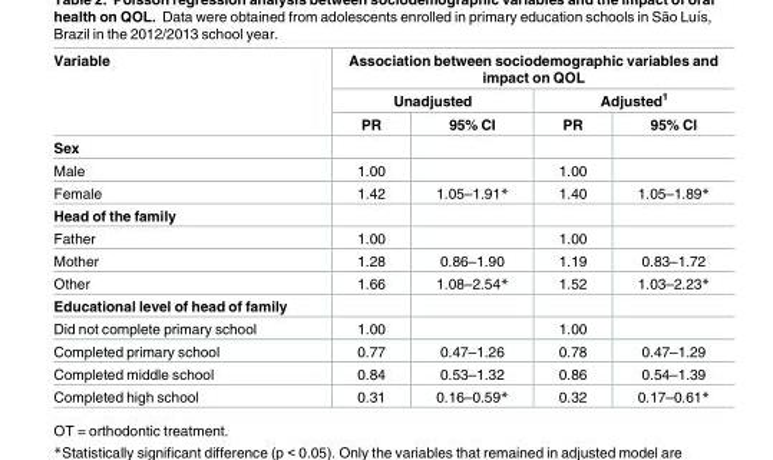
<table><thead><tr><td rowspan="3">Variable</td><td colspan="4">Association between sociodemographic variables and impact on QOL</td></tr><tr><td colspan="2">Unadjusted</td><td colspan="2">Adjusted<sup>1</sup></td></tr><tr><td>PR</td><td>95% CI</td><td>PR</td><td>95% CI</td></tr></thead><tbody><tr><td colspan="5">Sex</td></tr><tr><td>Male</td><td>1.00</td><td></td><td>1.00</td><td></td></tr><tr><td>Female</td><td>1.42</td><td>1.05–1.91*</td><td>1.40</td><td>1.05–1.89*</td></tr><tr><td colspan="5">Head of the family</td></tr><tr><td>Father</td><td>1.00</td><td></td><td>1.00</td><td></td></tr><tr><td>Mother</td><td>1.28</td><td>0.86–1.90</td><td>1.19</td><td>0.83–1.72</td></tr><tr><td>Other</td><td>1.66</td><td>1.08–2.54*</td><td>1.52</td><td>1.03–2.23*</td></tr><tr><td colspan="5">Educational level of head of family</td></tr><tr><td>Did not complete primary school</td><td>1.00</td><td></td><td>1.00</td><td></td></tr><tr><td>Completed primary school</td><td>0.77</td><td>0.47–1.26</td><td>0.78</td><td>0.47–1.29</td></tr><tr><td>Completed middle school</td><td>0.84</td><td>0.53–1.32</td><td>0.86</td><td>0.54–1.39</td></tr><tr><td>Completed high school</td><td>0.31</td><td>0.16–0.59*</td><td>0.32</td><td>0.17–0.61*</td></tr></tbody></table>